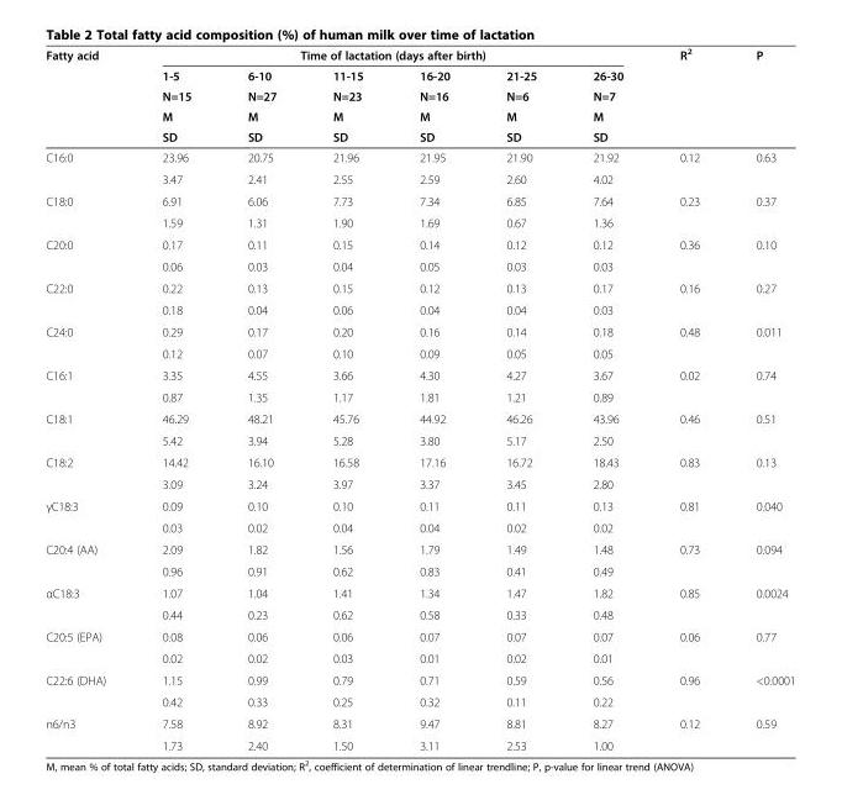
<table><thead><tr><td rowspan="5">Fatty acid</td><td colspan="6">Time of lactation (days after birth)</td><td rowspan="5">R<sup>2</sup></td><td rowspan="5">P</td></tr><tr><td rowspan="4">1-5 N=15 M SD</td><td rowspan="4">6-10 N=27 M SD</td><td rowspan="4">11-15 N=23 M SD</td><td rowspan="4">16-20 N=16 M SD</td><td rowspan="4">21-25 N=6 M SD</td><td rowspan="4">26-30 N=7 M SD</td></tr><tr></tr><tr></tr><tr></tr></thead><tbody><tr><td rowspan="2">C16:0</td><td>23.96</td><td>20.75</td><td>21.96</td><td>21.95</td><td>21.90</td><td>21.92</td><td rowspan="2">0.12</td><td rowspan="2">0.63</td></tr><tr><td>3.47</td><td>2.41</td><td>2.55</td><td>2.59</td><td>2.60</td><td>4.02</td></tr><tr><td rowspan="2">C18:0</td><td>6.91</td><td>6.06</td><td>7.73</td><td>7.34</td><td>6.85</td><td>7.64</td><td rowspan="2">0.23</td><td rowspan="2">0.37</td></tr><tr><td>1.59</td><td>1.31</td><td>1.90</td><td>1.69</td><td>0.67</td><td>1.36</td></tr><tr><td rowspan="2">C20:0</td><td>0.17</td><td>0.11</td><td>0.15</td><td>0.14</td><td>0.12</td><td>0.12</td><td rowspan="2">0.36</td><td rowspan="2">0.10</td></tr><tr><td>0.06</td><td>0.03</td><td>0.04</td><td>0.05</td><td>0.03</td><td>0.03</td></tr><tr><td rowspan="2">C22:0</td><td>0.22</td><td>0.13</td><td>0.15</td><td>0.12</td><td>0.13</td><td>0.17</td><td rowspan="2">0.16</td><td rowspan="2">0.27</td></tr><tr><td>0.18</td><td>0.04</td><td>0.06</td><td>0.04</td><td>0.04</td><td>0.03</td></tr><tr><td rowspan="2">C24:0</td><td>0.29</td><td>0.17</td><td>0.20</td><td>0.16</td><td>0.14</td><td>0.18</td><td rowspan="2">0.48</td><td rowspan="2">0.011</td></tr><tr><td>0.12</td><td>0.07</td><td>0.10</td><td>0.09</td><td>0.05</td><td>0.05</td></tr><tr><td rowspan="2">C16:1</td><td>3.35</td><td>4.55</td><td>3.66</td><td>4.30</td><td>4.27</td><td>3.67</td><td rowspan="2">0.02</td><td rowspan="2">0.74</td></tr><tr><td>0.87</td><td>1.35</td><td>1.17</td><td>1.81</td><td>1.21</td><td>0.89</td></tr><tr><td rowspan="2">C18:1</td><td>46.29</td><td>48.21</td><td>45.76</td><td>44.92</td><td>46.26</td><td>43.96</td><td rowspan="2">0.46</td><td rowspan="2">0.51</td></tr><tr><td>5.42</td><td>3.94</td><td>5.28</td><td>3.80</td><td>5.17</td><td>2.50</td></tr><tr><td rowspan="2">C18:2</td><td>14.42</td><td>16.10</td><td>16.58</td><td>17.16</td><td>16.72</td><td>18.43</td><td rowspan="2">0.83</td><td rowspan="2">0.13</td></tr><tr><td>3.09</td><td>3.24</td><td>3.97</td><td>3.37</td><td>3.45</td><td>2.80</td></tr><tr><td rowspan="2">γC18:3</td><td>0.09</td><td>0.10</td><td>0.10</td><td>0.11</td><td>0.11</td><td>0.13</td><td rowspan="2">0.81</td><td rowspan="2">0.040</td></tr><tr><td>0.03</td><td>0.02</td><td>0.04</td><td>0.04</td><td>0.02</td><td>0.02</td></tr><tr><td rowspan="2">C20:4 (AA)</td><td>2.09</td><td>1.82</td><td>1.56</td><td>1.79</td><td>1.49</td><td>1.48</td><td rowspan="2">0.73</td><td rowspan="2">0.094</td></tr><tr><td>0.96</td><td>0.91</td><td>0.62</td><td>0.83</td><td>0.41</td><td>0.49</td></tr><tr><td rowspan="2">αC18:3</td><td>1.07</td><td>1.04</td><td>1.41</td><td>1.34</td><td>1.47</td><td>1.82</td><td rowspan="2">0.85</td><td rowspan="2">0.0024</td></tr><tr><td>0.44</td><td>0.23</td><td>0.62</td><td>0.58</td><td>0.33</td><td>0.48</td></tr><tr><td rowspan="2">C20:5 (EPA)</td><td>0.08</td><td>0.06</td><td>0.06</td><td>0.07</td><td>0.07</td><td>0.07</td><td rowspan="2">0.06</td><td rowspan="2">0.77</td></tr><tr><td>0.02</td><td>0.02</td><td>0.03</td><td>0.01</td><td>0.02</td><td>0.01</td></tr><tr><td rowspan="2">C22:6 (DHA)</td><td>1.15</td><td>0.99</td><td>0.79</td><td>0.71</td><td>0.59</td><td>0.56</td><td rowspan="2">0.96</td><td rowspan="2">&lt;0.0001</td></tr><tr><td>0.42</td><td>0.33</td><td>0.25</td><td>0.32</td><td>0.11</td><td>0.22</td></tr><tr><td rowspan="2">n6/n3</td><td>7.58</td><td>8.92</td><td>8.31</td><td>9.47</td><td>8.81</td><td>8.27</td><td>0.12</td><td>0.59</td></tr><tr><td>1.73</td><td>2.40</td><td>1.50</td><td>3.11</td><td>2.53</td><td>1.00</td><td></td><td></td></tr></tbody></table>